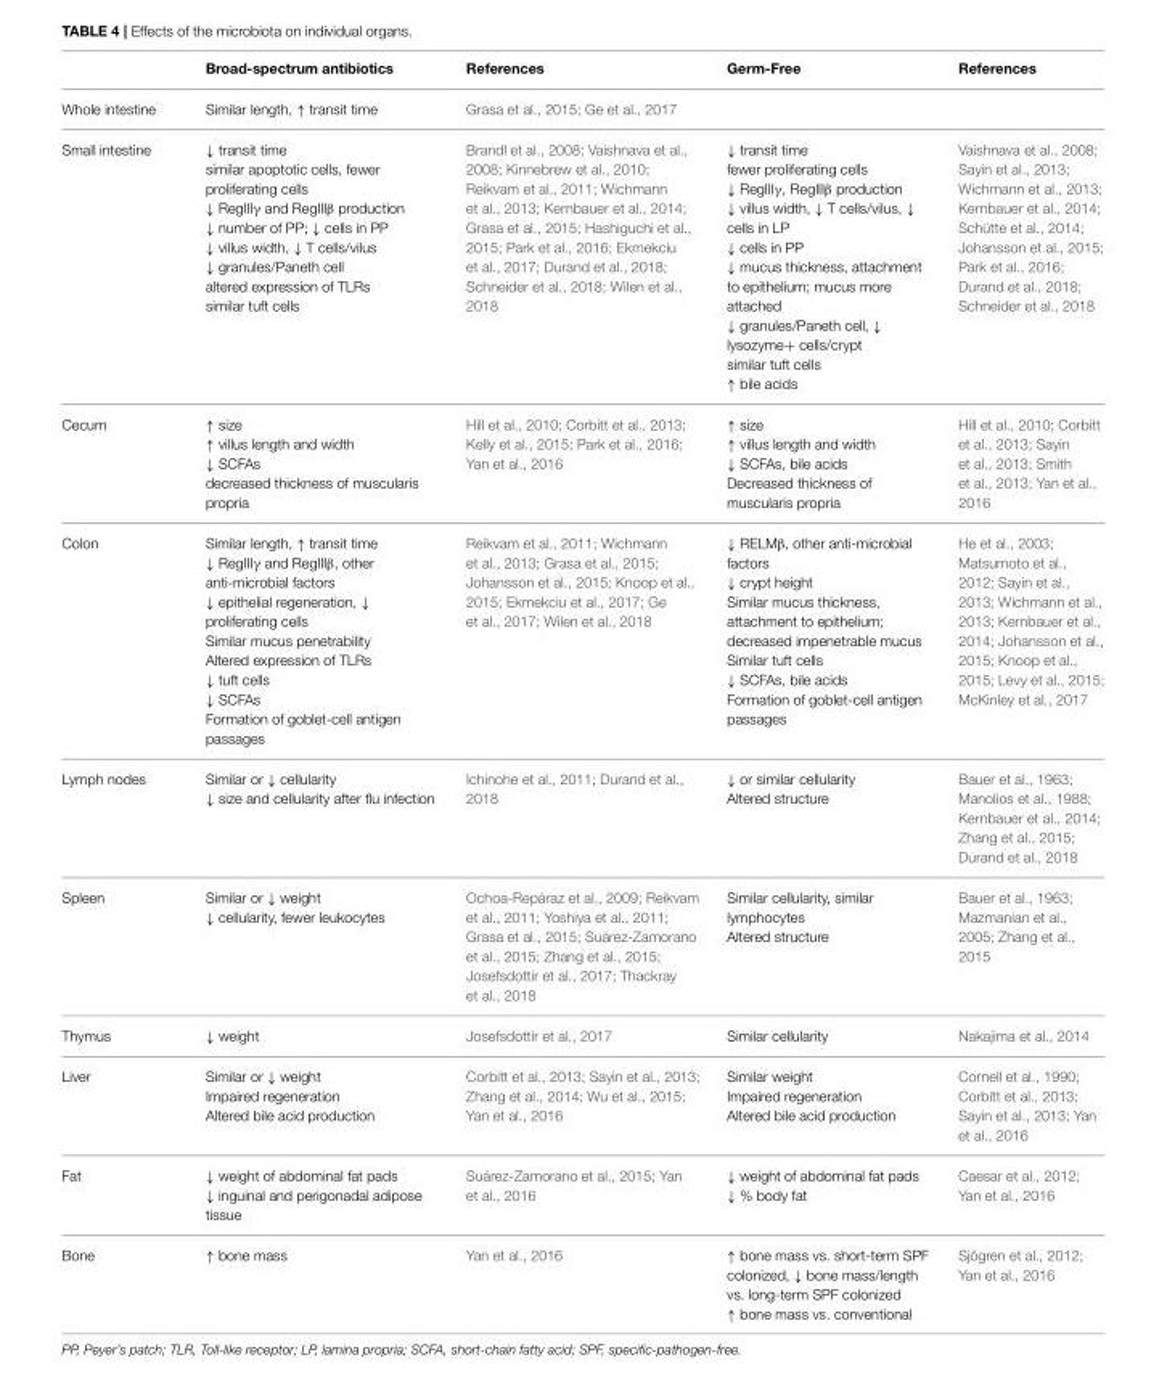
<table><thead><tr><td></td><td>Broad-spectrum antibiotics</td><td>References</td><td>Germ-Free</td><td>References</td></tr></thead><tbody><tr><td>Whole intestine</td><td>Similar length, ↑ transit time</td><td>Grasa et al., 2015; Ge et al., 2017</td><td></td><td></td></tr><tr><td>Small intestine</td><td>↓ transit time similar apoptotic cells, fewer proliferating cells ↓ RegIIIγ and RegIIIβ production ↓ number of PP; ↓ cells in PP ↓ villus width, ↓ T cells/vilus ↓ granules/Paneth cell altered expression of TLRs similar tuft cells</td><td>Brandl et al., 2008; Vaishnava et al., 2008; Kinnebrew et al., 2010; Reikvam et al., 2011; Wichmann et al., 2013; Kernbauer et al., 2014; Grasa et al., 2015; Hashiguchi et al., 2015; Park et al., 2016; Ekmekciu et al., 2017; Durand et al., 2018; Schneider et al., 2018; Wilen et al., 2018</td><td>↓ transit time fewer proliferating cells ↓ RegIIIγ, RegIIIβ production ↓ villus width, ↓ T cells/vilus, ↓ cells in LP ↓ cells in PP ↓ mucus thickness, attachment to epithelium; mucus more attached ↓ granules/Paneth cell, ↓ lysozyme+ cells/crypt similar tuft cells ↑ bile acids</td><td>Vaishnava et al., 2008; Sayin et al., 2013; Wichmann et al., 2013; Kernbauer et al., 2014; Schütte et al., 2014; Johansson et al., 2015; Park et al., 2016; Durand et al., 2018; Schneider et al., 2018</td></tr><tr><td>Cecum</td><td>↑ size ↑ villus length and width ↓ SCFAs decreased thickness of muscularis propria</td><td>Hill et al., 2010; Corbitt et al., 2013; Kelly et al., 2015; Park et al., 2016; Yan et al., 2016</td><td>↑ size ↑ villus length and width ↓ SCFAs, bile acids Decreased thickness of muscularis propria</td><td>Hill et al., 2010; Corbitt et al., 2013; Sayin et al., 2013; Smith et al., 2013; Yan et al., 2016</td></tr><tr><td>Colon</td><td>Similar length, ↑ transit time ↓ RegIIIγ and RegIIIβ, other anti-microbial factors ↓ epithelial regeneration, ↓ proliferating cells Similar mucus penetrability Altered expression of TLRs ↓ tuft cells ↓ SCFAs Formation of goblet-cell antigen passages</td><td>Reikvam et al., 2011; Wichmann et al., 2013; Grasa et al., 2015; Johansson et al., 2015; Knoop et al., 2015; Ekmekciu et al., 2017; Ge et al., 2017; Wilen et al., 2018</td><td>↓ RELMβ, other anti-microbial factors ↓ crypt height Similar mucus thickness, attachment to epithelium; decreased impenetrable mucus Similar tuft cells ↓ SCFAs, bile acids Formation of goblet-cell antigen passages</td><td>He et al., 2003; Matsumoto et al., 2012; Sayin et al., 2013; Wichmann et al., 2013; Kernbauer et al., 2014; Johansson et al., 2015; Knoop et al., 2015; Levy et al., 2015; McKinley et al., 2017</td></tr><tr><td>Lymph nodes</td><td>Similar or ↓ cellularity ↓ size and cellularity after flu infection</td><td>Ichinohe et al., 2011; Durand et al., 2018</td><td>↓ or similar cellularity Altered structure</td><td>Bauer et al., 1963; Manolios et al., 1988; Kernbauer et al., 2014; Zhang et al., 2015; Durand et al., 2018</td></tr><tr><td>Spleen</td><td>Similar or ↓ weight ↓ cellularity, fewer leukocytes</td><td>Ochoa-Repáraz et al., 2009; Reikvam et al., 2011; Yoshiya et al., 2011; Grasa et al., 2015; Suárez-Zamorano et al., 2015; Zhang et al., 2015; Josefsdottir et al., 2017; Thackray et al., 2018</td><td>Similar cellularity, similar lymphocytes Altered structure</td><td>Bauer et al., 1963; Mazmanian et al., 2005; Zhang et al., 2015</td></tr><tr><td>Thymus</td><td>↓ weight</td><td>Josefsdottir et al., 2017</td><td>Similar cellularity</td><td>Nakajima et al., 2014</td></tr><tr><td>Liver</td><td>Similar or ↓ weight Impaired regeneration Altered bile acid production</td><td>Corbitt et al., 2013; Sayin et al., 2013; Zhang et al., 2014; Wu et al., 2015; Yan et al., 2016</td><td>Similar weight Impaired regeneration Altered bile acid production</td><td>Cornell et al., 1990; Corbitt et al., 2013; Sayin et al., 2013; Yan et al., 2016</td></tr><tr><td>Fat</td><td>↓ weight of abdominal fat pads ↓ inguinal and perigonadal adipose tissue</td><td>Suárez-Zamorano et al., 2015; Yan et al., 2016</td><td>↓ weight of abdominal fat pads ↓ % body fat</td><td>Caesar et al., 2012; Yan et al., 2016</td></tr><tr><td>Bone</td><td>↑ bone mass</td><td>Yan et al., 2016</td><td>↑ bone mass vs. short-term SPF colonized, ↓ bone mass/length vs. long-term SPF colonized ↑ bone mass vs. conventional</td><td>Sjögren et al., 2012; Yan et al., 2016</td></tr></tbody></table>